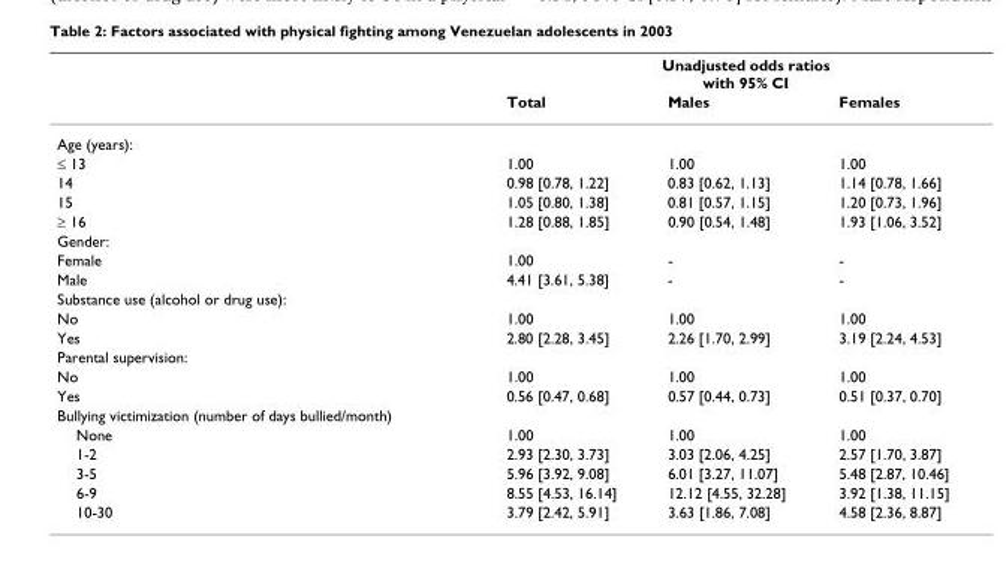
<table><thead><tr><td rowspan="2"></td><td colspan="3">Unadjusted odds ratios with 95% CI</td></tr><tr><td>Total</td><td>Males</td><td>Females</td></tr></thead><tbody><tr><td colspan="4">Age (years):</td></tr><tr><td>≤ 13</td><td>1.00</td><td>1.00</td><td>1.00</td></tr><tr><td>14</td><td>0.98 [0.78, 1.22]</td><td>0.83 [0.62, 1.13]</td><td>1.14 [0.78, 1.66]</td></tr><tr><td>15</td><td>1.05 [0.80, 1.38]</td><td>0.81 [0.57, 1.15]</td><td>1.20 [0.73, 1.96]</td></tr><tr><td>≥ 16</td><td>1.28 [0.88, 1.85]</td><td>0.90 [0.54, 1.48]</td><td>1.93 [1.06, 3.52]</td></tr><tr><td colspan="4">Gender:</td></tr><tr><td>Female</td><td>1.00</td><td>-</td><td>-</td></tr><tr><td>Male</td><td>4.41 [3.61, 5.38]</td><td>-</td><td>-</td></tr><tr><td colspan="4">Substance use (alcohol or drug use):</td></tr><tr><td>No</td><td>1.00</td><td>1.00</td><td>1.00</td></tr><tr><td>Yes</td><td>2.80 [2.28, 3.45]</td><td>2.26 [1.70, 2.99]</td><td>3.19 [2.24, 4.53]</td></tr><tr><td colspan="4">Parental supervision:</td></tr><tr><td>No</td><td>1.00</td><td>1.00</td><td>1.00</td></tr><tr><td>Yes</td><td>0.56 [0.47, 0.68]</td><td>0.57 [0.44, 0.73]</td><td>0.51 [0.37, 0.70]</td></tr><tr><td colspan="4">Bullying victimization (number of days bullied/month)</td></tr><tr><td>None</td><td>1.00</td><td>1.00</td><td>1.00</td></tr><tr><td>1-2</td><td>2.93 [2.30, 3.73]</td><td>3.03 [2.06, 4.25]</td><td>2.57 [1.70, 3.87]</td></tr><tr><td>3-5</td><td>5.96 [3.92, 9.08]</td><td>6.01 [3.27, 11.07]</td><td>5.48 [2.87, 10.46]</td></tr><tr><td>6-9</td><td>8.55 [4.53, 16.14]</td><td>12.12 [4.55, 32.28]</td><td>3.92 [1.38, 11.15]</td></tr><tr><td>10-30</td><td>3.79 [2.42, 5.91]</td><td>3.63 [1.86, 7.08]</td><td>4.58 [2.36, 8.87]</td></tr></tbody></table>